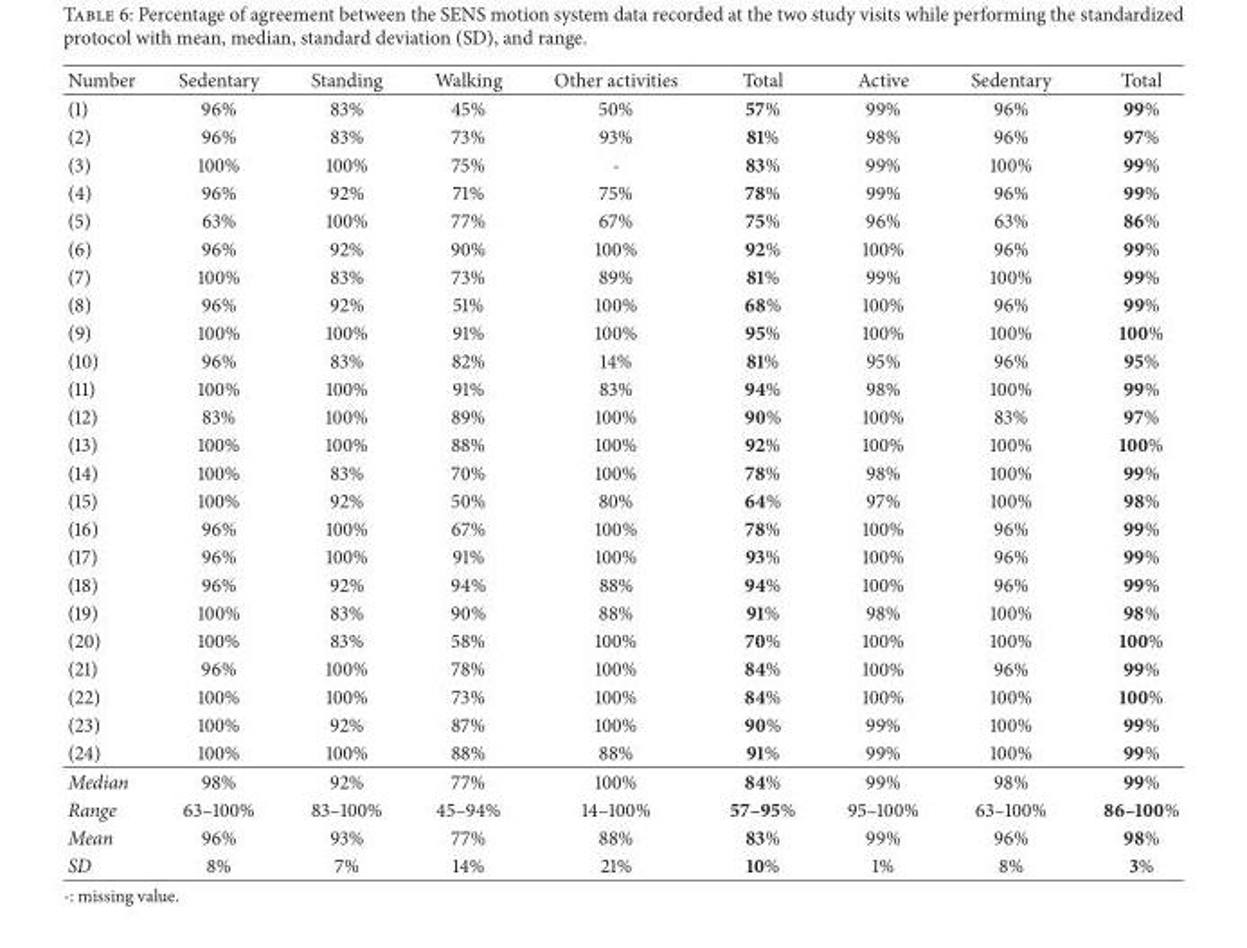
<table><thead><tr><td>Number</td><td>Sedentary</td><td>Standing</td><td>Walking</td><td>Other activities</td><td>Total</td><td>Active</td><td>Sedentary</td><td>Total</td></tr></thead><tbody><tr><td>(1)</td><td>96%</td><td>83%</td><td>45%</td><td>50%</td><td>57%</td><td>99%</td><td>96%</td><td>99%</td></tr><tr><td>(2)</td><td>96%</td><td>83%</td><td>73%</td><td>93%</td><td>81%</td><td>98%</td><td>96%</td><td>97%</td></tr><tr><td>(3)</td><td>100%</td><td>100%</td><td>75%</td><td>-</td><td>83%</td><td>99%</td><td>100%</td><td>99%</td></tr><tr><td>(4)</td><td>96%</td><td>92%</td><td>71%</td><td>75%</td><td>78%</td><td>99%</td><td>96%</td><td>99%</td></tr><tr><td>(5)</td><td>63%</td><td>100%</td><td>77%</td><td>67%</td><td>75%</td><td>96%</td><td>63%</td><td>86%</td></tr><tr><td>(6)</td><td>96%</td><td>92%</td><td>90%</td><td>100%</td><td>92%</td><td>100%</td><td>96%</td><td>99%</td></tr><tr><td>(7)</td><td>100%</td><td>83%</td><td>73%</td><td>89%</td><td>81%</td><td>99%</td><td>100%</td><td>99%</td></tr><tr><td>(8)</td><td>96%</td><td>92%</td><td>51%</td><td>100%</td><td>68%</td><td>100%</td><td>96%</td><td>99%</td></tr><tr><td>(9)</td><td>100%</td><td>100%</td><td>91%</td><td>100%</td><td>95%</td><td>100%</td><td>100%</td><td>100%</td></tr><tr><td>(10)</td><td>96%</td><td>83%</td><td>82%</td><td>14%</td><td>81%</td><td>95%</td><td>96%</td><td>95%</td></tr><tr><td>(11)</td><td>100%</td><td>100%</td><td>91%</td><td>83%</td><td>94%</td><td>98%</td><td>100%</td><td>99%</td></tr><tr><td>(12)</td><td>83%</td><td>100%</td><td>89%</td><td>100%</td><td>90%</td><td>100%</td><td>83%</td><td>97%</td></tr><tr><td>(13)</td><td>100%</td><td>100%</td><td>88%</td><td>100%</td><td>92%</td><td>100%</td><td>100%</td><td>100%</td></tr><tr><td>(14)</td><td>100%</td><td>83%</td><td>70%</td><td>100%</td><td>78%</td><td>98%</td><td>100%</td><td>99%</td></tr><tr><td>(15)</td><td>100%</td><td>92%</td><td>50%</td><td>80%</td><td>64%</td><td>97%</td><td>100%</td><td>98%</td></tr><tr><td>(16)</td><td>96%</td><td>100%</td><td>67%</td><td>100%</td><td>78%</td><td>100%</td><td>96%</td><td>99%</td></tr><tr><td>(17)</td><td>96%</td><td>100%</td><td>91%</td><td>100%</td><td>93%</td><td>100%</td><td>96%</td><td>99%</td></tr><tr><td>(18)</td><td>96%</td><td>92%</td><td>94%</td><td>88%</td><td>94%</td><td>100%</td><td>96%</td><td>99%</td></tr><tr><td>(19)</td><td>100%</td><td>83%</td><td>90%</td><td>88%</td><td>91%</td><td>98%</td><td>100%</td><td>98%</td></tr><tr><td>(20)</td><td>100%</td><td>83%</td><td>58%</td><td>100%</td><td>70%</td><td>100%</td><td>100%</td><td>100%</td></tr><tr><td>(21)</td><td>96%</td><td>100%</td><td>78%</td><td>100%</td><td>84%</td><td>100%</td><td>96%</td><td>99%</td></tr><tr><td>(22)</td><td>100%</td><td>100%</td><td>73%</td><td>100%</td><td>84%</td><td>100%</td><td>100%</td><td>100%</td></tr><tr><td>(23)</td><td>100%</td><td>92%</td><td>87%</td><td>100%</td><td>90%</td><td>99%</td><td>100%</td><td>99%</td></tr><tr><td>(24)</td><td>100%</td><td>100%</td><td>88%</td><td>88%</td><td>91%</td><td>99%</td><td>100%</td><td>99%</td></tr><tr><td>Median</td><td>98%</td><td>92%</td><td>77%</td><td>100%</td><td>84%</td><td>99%</td><td>98%</td><td>99%</td></tr><tr><td>Range</td><td>63–100%</td><td>83–100%</td><td>45–94%</td><td>14–100%</td><td>57–95%</td><td>95–100%</td><td>63–100%</td><td>86–100%</td></tr><tr><td>Mean</td><td>96%</td><td>93%</td><td>77%</td><td>88%</td><td>83%</td><td>99%</td><td>96%</td><td>98%</td></tr><tr><td>SD</td><td>8%</td><td>7%</td><td>14%</td><td>21%</td><td>10%</td><td>1%</td><td>8%</td><td>3%</td></tr></tbody></table>